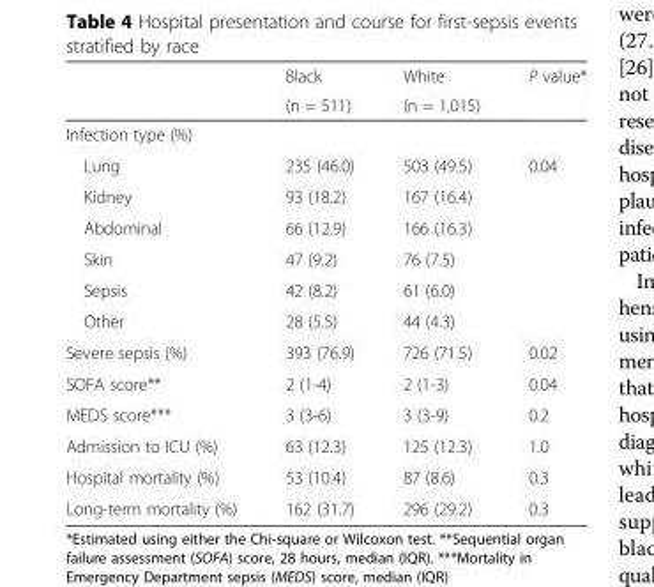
<table><thead><tr><td rowspan="2"></td><td rowspan="2">Black (n = 511)</td><td rowspan="2">White (n = 1,015)</td><td rowspan="2">P value*</td></tr><tr></tr></thead><tbody><tr><td colspan="4">Infection type (%)</td></tr><tr><td>Lung</td><td>235 (46.0)</td><td>503 (49.5)</td><td>0.04</td></tr><tr><td>Kidney</td><td>93 (18.2)</td><td>167 (16.4)</td><td></td></tr><tr><td>Abdominal</td><td>66 (12.9)</td><td>166 (16.3)</td><td></td></tr><tr><td>Skin</td><td>47 (9.2)</td><td>76 (7.5)</td><td></td></tr><tr><td>Sepsis</td><td>42 (8.2)</td><td>61 (6.0)</td><td></td></tr><tr><td>Other</td><td>28 (5.5)</td><td>44 (4.3)</td><td></td></tr><tr><td>Severe sepsis (%)</td><td>393 (76.9)</td><td>726 (71.5)</td><td>0.02</td></tr><tr><td>SOFA score**</td><td>2 (1-4)</td><td>2 (1-3)</td><td>0.04</td></tr><tr><td>MEDS score***</td><td>3 (3-6)</td><td>3 (3-9)</td><td>0.2</td></tr><tr><td>Admission to ICU (%)</td><td>63 (12.3)</td><td>125 (12.3)</td><td>1.0</td></tr><tr><td>Hospital mortality (%)</td><td>53 (10.4)</td><td>87 (8.6)</td><td>0.3</td></tr><tr><td>Long-term mortality (%)</td><td>162 (31.7)</td><td>296 (29.2)</td><td>0.3</td></tr></tbody></table>